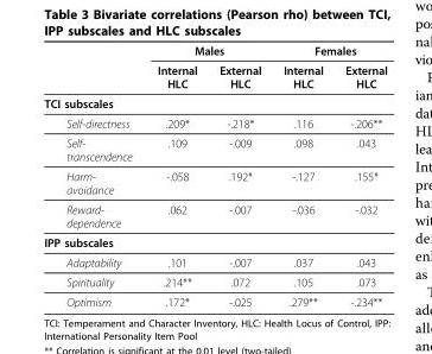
<table><thead><tr><td rowspan="2"></td><td colspan="2">Males</td><td colspan="2">Females</td></tr><tr><td>Internal HLC</td><td>External HLC</td><td>Internal HLC</td><td>External HLC</td></tr></thead><tbody><tr><td colspan="5">TCI subscales</td></tr><tr><td>Self-directness</td><td>.209*</td><td>-.218*</td><td>.116</td><td>-.206**</td></tr><tr><td>Self- transcendence</td><td>.109</td><td>-.009</td><td>.098</td><td>.043</td></tr><tr><td>Harm- avoidance</td><td>-.058</td><td>.192*</td><td>-.127</td><td>.155*</td></tr><tr><td>Reward- dependence</td><td>.062</td><td>-.007</td><td>-.036</td><td>-.032</td></tr><tr><td colspan="5">IPP subscales</td></tr><tr><td>Adaptability</td><td>.101</td><td>-.007</td><td>.037</td><td>.043</td></tr><tr><td>Spirituality</td><td>.214**</td><td>.072</td><td>.105</td><td>.073</td></tr><tr><td>Optimism</td><td>.172*</td><td>-.025</td><td>.279**</td><td>-.234**</td></tr></tbody></table>